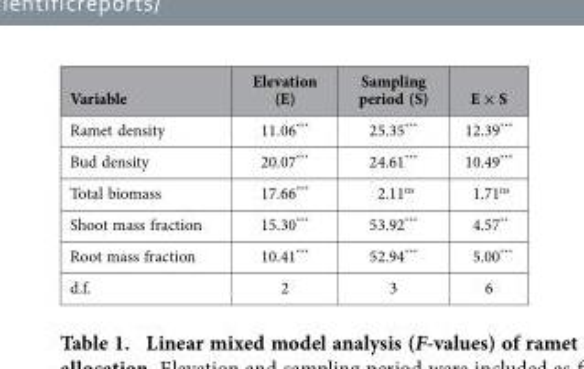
<table><thead><tr><td>Variable</td><td>Elevation (E)</td><td>Sampling period (S)</td><td>E × S</td></tr></thead><tbody><tr><td>Ramet density</td><td>11.06***</td><td>25.35***</td><td>12.39***</td></tr><tr><td>Bud density</td><td>20.07***</td><td>24.61***</td><td>10.49***</td></tr><tr><td>Total biomass</td><td>17.66***</td><td>2.11<sup>ns</sup></td><td>1.71<sup>ns</sup></td></tr><tr><td>Shoot mass fraction</td><td>15.30***</td><td>53.92***</td><td>4.57**</td></tr><tr><td>Root mass fraction</td><td>10.41***</td><td>52.94***</td><td>5.00***</td></tr><tr><td>d.f.</td><td>2</td><td>3</td><td>6</td></tr></tbody></table>